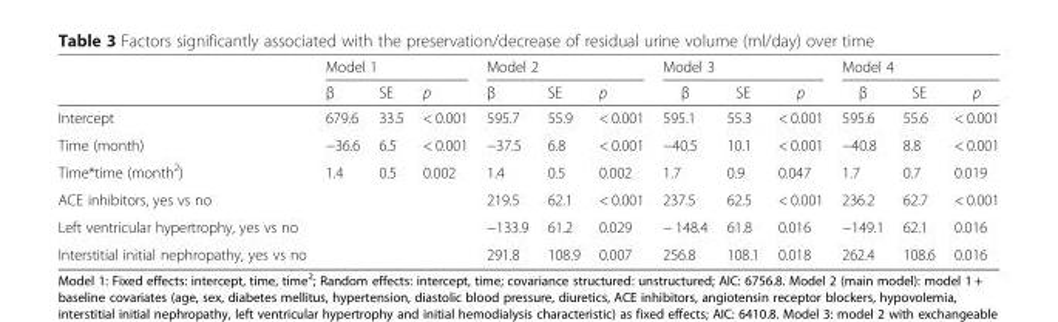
<table><thead><tr><td rowspan="2"></td><td colspan="3">Model 1</td><td colspan="3">Model 2</td><td colspan="3">Model 3</td><td colspan="3">Model 4</td></tr><tr><td>β</td><td>SE</td><td>p</td><td>β</td><td>SE</td><td>p</td><td>β</td><td>SE</td><td>p</td><td>β</td><td>SE</td><td>p</td></tr></thead><tbody><tr><td>Intercept</td><td>679.6</td><td>33.5</td><td>&lt; 0.001</td><td>595.7</td><td>55.9</td><td>&lt; 0.001</td><td>595.1</td><td>55.3</td><td>&lt; 0.001</td><td>595.6</td><td>55.6</td><td>&lt; 0.001</td></tr><tr><td>Time (month)</td><td>−36.6</td><td>6.5</td><td>&lt; 0.001</td><td>−37.5</td><td>6.8</td><td>&lt; 0.001</td><td>−40.5</td><td>10.1</td><td>&lt; 0.001</td><td>−40.8</td><td>8.8</td><td>&lt; 0.001</td></tr><tr><td>Time*time (month<sup>2</sup>)</td><td>1.4</td><td>0.5</td><td>0.002</td><td>1.4</td><td>0.5</td><td>0.002</td><td>1.7</td><td>0.9</td><td>0.047</td><td>1.7</td><td>0.7</td><td>0.019</td></tr><tr><td>ACE inhibitors, yes vs no</td><td></td><td></td><td></td><td>219.5</td><td>62.1</td><td>&lt; 0.001</td><td>237.5</td><td>62.5</td><td>&lt; 0.001</td><td>236.2</td><td>62.7</td><td>&lt; 0.001</td></tr><tr><td>Left ventricular hypertrophy, yes vs no</td><td></td><td></td><td></td><td>−133.9</td><td>61.2</td><td>0.029</td><td>− 148.4</td><td>61.8</td><td>0.016</td><td>−149.1</td><td>62.1</td><td>0.016</td></tr><tr><td>Interstitial initial nephropathy, yes vs no</td><td></td><td></td><td></td><td>291.8</td><td>108.9</td><td>0.007</td><td>256.8</td><td>108.1</td><td>0.018</td><td>262.4</td><td>108.6</td><td>0.016</td></tr></tbody></table>